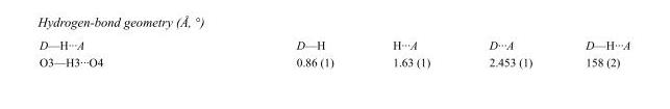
<table><tbody><tr><td>D—H···A</td><td>D—H</td><td>H···A</td><td>D···A</td><td>D—H···A</td></tr><tr><td>O3—H3···O4</td><td>0.86 (1)</td><td>1.63 (1)</td><td>2.453 (1)</td><td>158 (2)</td></tr></tbody></table>